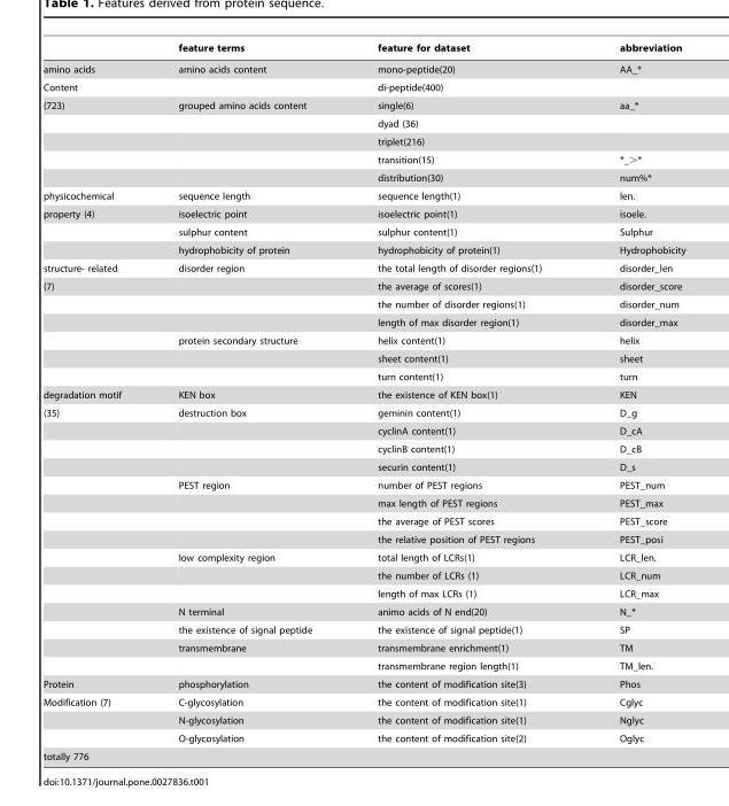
<table><thead><tr><td></td><td>feature terms</td><td>feature for dataset</td><td>abbreviation</td></tr></thead><tbody><tr><td>amino acids</td><td>amino acids content</td><td>mono-peptide(20)</td><td>AA_*</td></tr><tr><td>Content</td><td></td><td>di-peptide(400)</td><td></td></tr><tr><td rowspan="5">(723)</td><td>grouped amino acids content</td><td>single(6)</td><td>aa_*</td></tr><tr><td></td><td>dyad (36)</td><td></td></tr><tr><td></td><td>triplet(216)</td><td></td></tr><tr><td></td><td>transition(15)</td><td>*_&gt;*</td></tr><tr><td></td><td>distribution(30)</td><td>num%*</td></tr><tr><td>physicochemical</td><td>sequence length</td><td>sequence length(1)</td><td>len.</td></tr><tr><td rowspan="3">property (4)</td><td>isoelectric point</td><td>isoelectric point(1)</td><td>isoele.</td></tr><tr><td>sulphur content</td><td>sulphur content(1)</td><td>Sulphur</td></tr><tr><td>hydrophobicity of protein</td><td>hydrophobicity of protein(1)</td><td>Hydrophobicity</td></tr><tr><td>structure- related</td><td>disorder region</td><td>the total length of disorder regions(1)</td><td>disorder_len</td></tr><tr><td rowspan="6">(7)</td><td></td><td>the average of scores(1)</td><td>disorder_score</td></tr><tr><td></td><td>the number of disorder regions(1)</td><td>disorder_num</td></tr><tr><td></td><td>length of max disorder region(1)</td><td>disorder_max</td></tr><tr><td>protein secondary structure</td><td>helix content(1)</td><td>helix</td></tr><tr><td></td><td>sheet content(1)</td><td>sheet</td></tr><tr><td></td><td>turn content(1)</td><td>turn</td></tr><tr><td>degradation motif</td><td>KEN box</td><td>the existence of KEN box(1)</td><td>KEN</td></tr><tr><td rowspan="15">(35)</td><td>destruction box</td><td>geminin content(1)</td><td>D_g</td></tr><tr><td></td><td>cyclinA content(1)</td><td>D_cA</td></tr><tr><td></td><td>cyclinB content(1)</td><td>D_cB</td></tr><tr><td></td><td>securin content(1)</td><td>D_s</td></tr><tr><td>PEST region</td><td>number of PEST regions</td><td>PEST_num</td></tr><tr><td></td><td>max length of PEST regions</td><td>PEST_max</td></tr><tr><td></td><td>the average of PEST scores</td><td>PEST_score</td></tr><tr><td></td><td>the relative position of PEST regions</td><td>PEST_posi</td></tr><tr><td>low complexity region</td><td>total length of LCRs(1)</td><td>LCR_len.</td></tr><tr><td></td><td>the number of LCRs (1)</td><td>LCR_num</td></tr><tr><td></td><td>length of max LCRs (1)</td><td>LCR_max</td></tr><tr><td>N terminal</td><td>animo acids of N end(20)</td><td>N_*</td></tr><tr><td>the existence of signal peptide</td><td>the existence of signal peptide(1)</td><td>SP</td></tr><tr><td>transmembrane</td><td>transmembrane enrichment(1)</td><td>TM</td></tr><tr><td></td><td>transmembrane region length(1)</td><td>TM_len.</td></tr><tr><td>Protein</td><td>phosphorylation</td><td>the content of modification site(3)</td><td>Phos</td></tr><tr><td rowspan="3">Modification (7)</td><td>C-glycosylation</td><td>the content of modification site(1)</td><td>Cglyc</td></tr><tr><td>N-glycosylation</td><td>the content of modification site(1)</td><td>Nglyc</td></tr><tr><td>O-glycosylation</td><td>the content of modification site(2)</td><td>Oglyc</td></tr><tr><td colspan="4">totally 776</td></tr></tbody></table>